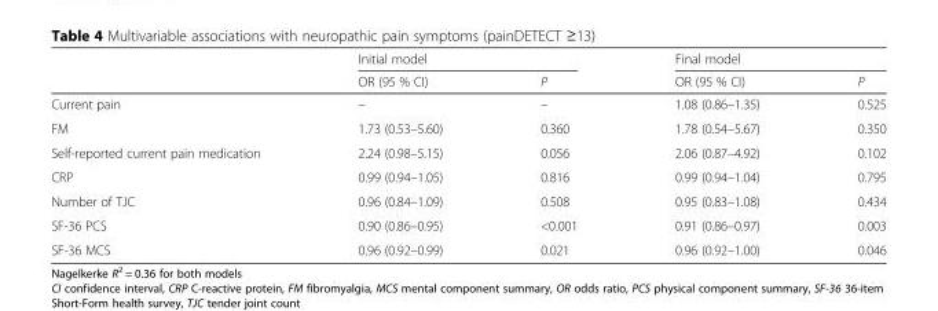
<table><thead><tr><td rowspan="2"></td><td colspan="2">Initial model</td><td colspan="2">Final model</td></tr><tr><td>OR (95 % CI)</td><td>P</td><td>OR (95 % CI)</td><td>P</td></tr></thead><tbody><tr><td>Current pain</td><td>–</td><td>–</td><td>1.08 (0.86–1.35)</td><td>0.525</td></tr><tr><td>FM</td><td>1.73 (0.53–5.60)</td><td>0.360</td><td>1.78 (0.54–5.67)</td><td>0.350</td></tr><tr><td>Self-reported current pain medication</td><td>2.24 (0.98–5.15)</td><td>0.056</td><td>2.06 (0.87–4.92)</td><td>0.102</td></tr><tr><td>CRP</td><td>0.99 (0.94–1.05)</td><td>0.816</td><td>0.99 (0.94–1.04)</td><td>0.795</td></tr><tr><td>Number of TJC</td><td>0.96 (0.84–1.09)</td><td>0.508</td><td>0.95 (0.83–1.08)</td><td>0.434</td></tr><tr><td>SF-36 PCS</td><td>0.90 (0.86–0.95)</td><td>&lt;0.001</td><td>0.91 (0.86–0.97)</td><td>0.003</td></tr><tr><td>SF-36 MCS</td><td>0.96 (0.92–0.99)</td><td>0.021</td><td>0.96 (0.92–1.00)</td><td>0.046</td></tr></tbody></table>